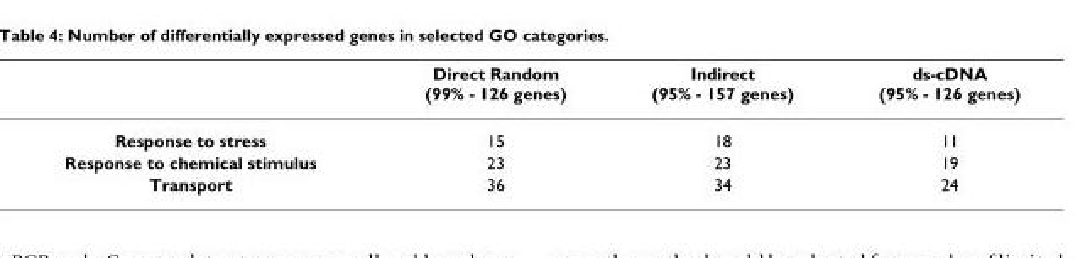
<table><thead><tr><td></td><td>Direct Random (99% - 126 genes)</td><td>Indirect (95% - 157 genes)</td><td>ds-cDNA (95% - 126 genes)</td></tr></thead><tbody><tr><td>Response to stress</td><td>15</td><td>18</td><td>11</td></tr><tr><td>Response to chemical stimulus</td><td>23</td><td>23</td><td>19</td></tr><tr><td>Transport</td><td>36</td><td>34</td><td>24</td></tr></tbody></table>